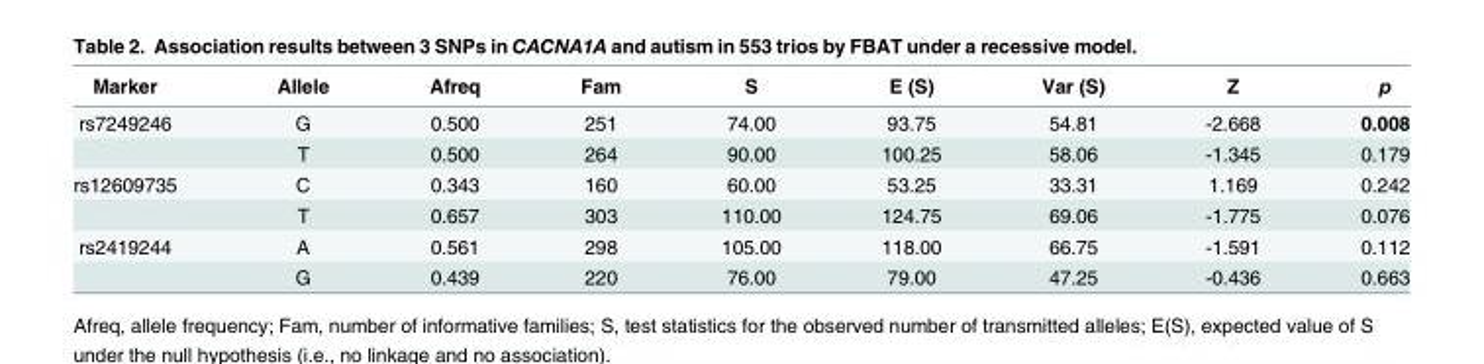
<table><thead><tr><td>Marker</td><td>Allele</td><td>Afreq</td><td>Fam</td><td>S</td><td>E (S)</td><td>Var (S)</td><td>Z</td><td>p</td></tr></thead><tbody><tr><td rowspan="2">rs7249246</td><td>G</td><td>0.500</td><td>251</td><td>74.00</td><td>93.75</td><td>54.81</td><td>-2.668</td><td>0.008</td></tr><tr><td>T</td><td>0.500</td><td>264</td><td>90.00</td><td>100.25</td><td>58.06</td><td>-1.345</td><td>0.179</td></tr><tr><td rowspan="2">rs12609735</td><td>C</td><td>0.343</td><td>160</td><td>60.00</td><td>53.25</td><td>33.31</td><td>1.169</td><td>0.242</td></tr><tr><td>T</td><td>0.657</td><td>303</td><td>110.00</td><td>124.75</td><td>69.06</td><td>-1.775</td><td>0.076</td></tr><tr><td rowspan="2">rs2419244</td><td>A</td><td>0.561</td><td>298</td><td>105.00</td><td>118.00</td><td>66.75</td><td>-1.591</td><td>0.112</td></tr><tr><td>G</td><td>0.439</td><td>220</td><td>76.00</td><td>79.00</td><td>47.25</td><td>-0.436</td><td>0.663</td></tr></tbody></table>